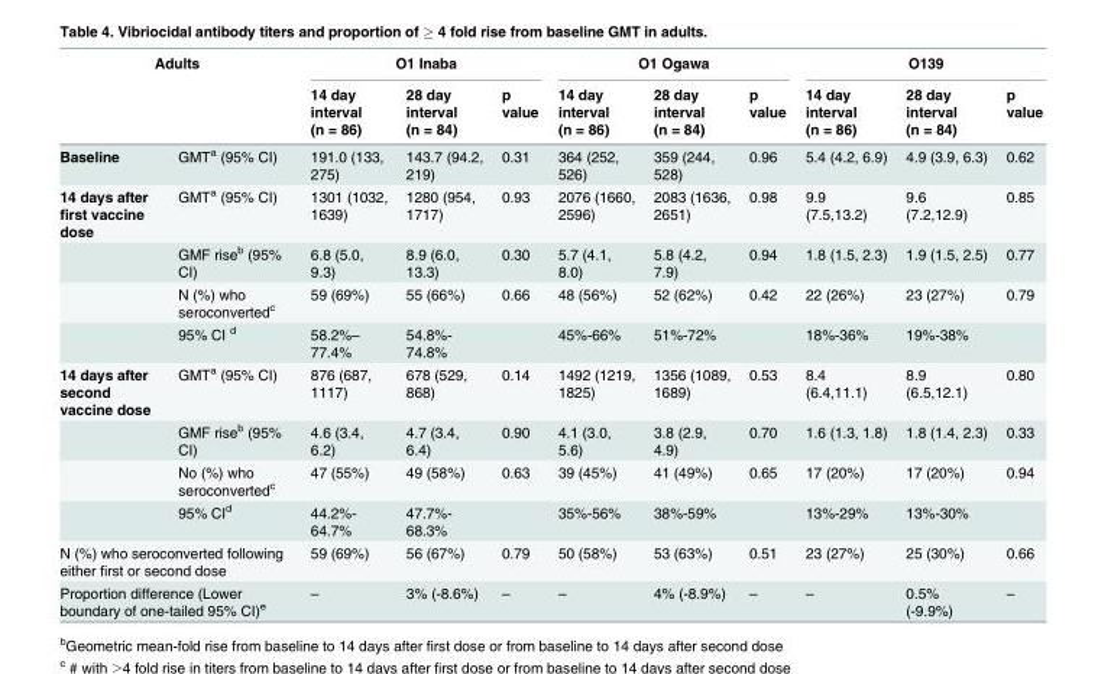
<table><thead><tr><td colspan="2">Adults</td><td colspan="3">O1 Inaba</td><td colspan="3">O1 Ogawa</td><td colspan="3">O139</td></tr><tr><td></td><td></td><td>14 day interval (n = 86)</td><td>28 day interval (n = 84)</td><td>p value</td><td>14 day interval (n = 86)</td><td>28 day interval (n = 84)</td><td>p value</td><td>14 day interval (n = 86)</td><td>28 day interval (n = 84)</td><td>p value</td></tr></thead><tbody><tr><td>Baseline</td><td>GMT<sup>a</sup> (95% CI)</td><td>191.0 (133, 275)</td><td>143.7 (94.2, 219)</td><td>0.31</td><td>364 (252, 526)</td><td>359 (244, 528)</td><td>0.96</td><td>5.4 (4.2, 6.9)</td><td>4.9 (3.9, 6.3)</td><td>0.62</td></tr><tr><td rowspan="4">14 days after first vaccine dose</td><td>GMT<sup>a</sup> (95% CI)</td><td>1301 (1032, 1639)</td><td>1280 (954, 1717)</td><td>0.93</td><td>2076 (1660, 2596)</td><td>2083 (1636, 2651)</td><td>0.98</td><td>9.9 (7.5,13.2)</td><td>9.6 (7.2,12.9)</td><td>0.85</td></tr><tr><td>GMF rise<sup>b</sup> (95% CI)</td><td>6.8 (5.0, 9.3)</td><td>8.9 (6.0, 13.3)</td><td>0.30</td><td>5.7 (4.1, 8.0)</td><td>5.8 (4.2, 7.9)</td><td>0.94</td><td>1.8 (1.5, 2.3)</td><td>1.9 (1.5, 2.5)</td><td>0.77</td></tr><tr><td>N (%) who seroconverted<sup>c</sup></td><td>59 (69%)</td><td>55 (66%)</td><td>0.66</td><td>48 (56%)</td><td>52 (62%)</td><td>0.42</td><td>22 (26%)</td><td>23 (27%)</td><td>0.79</td></tr><tr><td>95% CI <sup>d</sup></td><td>58.2%– 77.4%</td><td>54.8%- 74.8%</td><td></td><td>45%-66%</td><td>51%-72%</td><td></td><td>18%-36%</td><td>19%-38%</td><td></td></tr><tr><td rowspan="4">14 days after second vaccine dose</td><td>GMT<sup>a</sup> (95% CI)</td><td>876 (687, 1117)</td><td>678 (529, 868)</td><td>0.14</td><td>1492 (1219, 1825)</td><td>1356 (1089, 1689)</td><td>0.53</td><td>8.4 (6.4,11.1)</td><td>8.9 (6.5,12.1)</td><td>0.80</td></tr><tr><td>GMF rise<sup>b</sup> (95% CI)</td><td>4.6 (3.4, 6.2)</td><td>4.7 (3.4, 6.4)</td><td>0.90</td><td>4.1 (3.0, 5.6)</td><td>3.8 (2.9, 4.9)</td><td>0.70</td><td>1.6 (1.3, 1.8)</td><td>1.8 (1.4, 2.3)</td><td>0.33</td></tr><tr><td>No (%) who seroconverted<sup>c</sup></td><td>47 (55%)</td><td>49 (58%)</td><td>0.63</td><td>39 (45%)</td><td>41 (49%)</td><td>0.65</td><td>17 (20%)</td><td>17 (20%)</td><td>0.94</td></tr><tr><td>95% CI<sup>d</sup></td><td>44.2%- 64.7%</td><td>47.7%- 68.3%</td><td></td><td>35%-56%</td><td>38%-59%</td><td></td><td>13%-29%</td><td>13%-30%</td><td></td></tr><tr><td colspan="2">N (%) who seroconverted following either first or second dose</td><td>59 (69%)</td><td>56 (67%)</td><td>0.79</td><td>50 (58%)</td><td>53 (63%)</td><td>0.51</td><td>23 (27%)</td><td>25 (30%)</td><td>0.66</td></tr><tr><td colspan="2">Proportion difference (Lower boundary of one-tailed 95% CI)<sup>e</sup></td><td>–</td><td>3% (-8.6%)</td><td>–</td><td>–</td><td>4% (-8.9%)</td><td>–</td><td>–</td><td>0.5% (-9.9%)</td><td>–</td></tr></tbody></table>